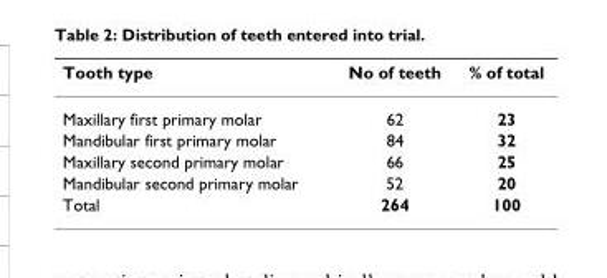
<table><thead><tr><td>Tooth type</td><td>No of teeth</td><td>% of total</td></tr></thead><tbody><tr><td>Maxillary first primary molar</td><td>62</td><td>23</td></tr><tr><td>Mandibular first primary molar</td><td>84</td><td>32</td></tr><tr><td>Maxillary second primary molar</td><td>66</td><td>25</td></tr><tr><td>Mandibular second primary molar</td><td>52</td><td>20</td></tr><tr><td>Total</td><td>264</td><td>100</td></tr></tbody></table>